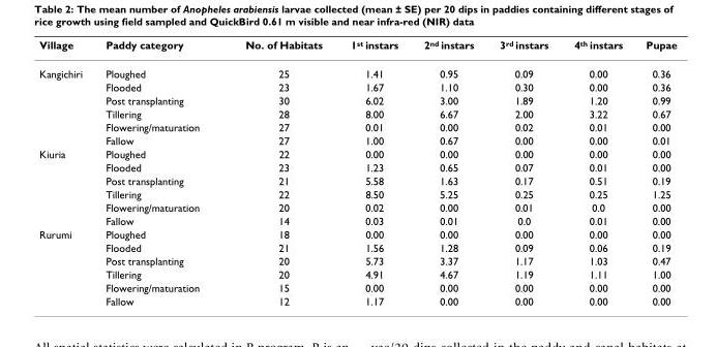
<table><thead><tr><td>Village</td><td>Paddy category</td><td>No. of Habitats</td><td>1<sup>st</sup> instars</td><td>2<sup>nd</sup> instars</td><td>3<sup>rd</sup> instars</td><td>4<sup>th</sup> instars</td><td>Pupae</td></tr></thead><tbody><tr><td rowspan="6">Kangichiri</td><td>Ploughed</td><td>25</td><td>1.41</td><td>0.95</td><td>0.09</td><td>0.00</td><td>0.36</td></tr><tr><td>Flooded</td><td>23</td><td>1.67</td><td>1.10</td><td>0.30</td><td>0.00</td><td>0.36</td></tr><tr><td>Post transplanting</td><td>30</td><td>6.02</td><td>3.00</td><td>1.89</td><td>1.20</td><td>0.99</td></tr><tr><td>Tillering</td><td>28</td><td>8.00</td><td>6.67</td><td>2.00</td><td>3.22</td><td>0.67</td></tr><tr><td>Flowering/maturation</td><td>27</td><td>0.01</td><td>0.00</td><td>0.02</td><td>0.01</td><td>0.00</td></tr><tr><td>Fallow</td><td>27</td><td>1.00</td><td>0.67</td><td>0.00</td><td>0.00</td><td>0.01</td></tr><tr><td rowspan="6">Kiuria</td><td>Ploughed</td><td>22</td><td>0.00</td><td>0.00</td><td>0.00</td><td>0.00</td><td>0.00</td></tr><tr><td>Flooded</td><td>23</td><td>1.23</td><td>0.65</td><td>0.07</td><td>0.01</td><td>0.00</td></tr><tr><td>Post transplanting</td><td>21</td><td>5.58</td><td>1.63</td><td>0.17</td><td>0.51</td><td>0.19</td></tr><tr><td>Tillering</td><td>22</td><td>8.50</td><td>5.25</td><td>0.25</td><td>0.25</td><td>1.25</td></tr><tr><td>Flowering/maturation</td><td>20</td><td>0.02</td><td>0.00</td><td>0.01</td><td>0.0</td><td>0.00</td></tr><tr><td>Fallow</td><td>14</td><td>0.03</td><td>0.01</td><td>0.0</td><td>0.01</td><td>0.00</td></tr><tr><td rowspan="6">Rurumi</td><td>Ploughed</td><td>18</td><td>0.00</td><td>0.00</td><td>0.00</td><td>0.00</td><td>0.00</td></tr><tr><td>Flooded</td><td>21</td><td>1.56</td><td>1.28</td><td>0.09</td><td>0.06</td><td>0.19</td></tr><tr><td>Post transplanting</td><td>20</td><td>5.73</td><td>3.37</td><td>1.17</td><td>1.03</td><td>0.47</td></tr><tr><td>Tillering</td><td>20</td><td>4.91</td><td>4.67</td><td>1.19</td><td>1.11</td><td>1.00</td></tr><tr><td>Flowering/maturation</td><td>15</td><td>0.00</td><td>0.00</td><td>0.00</td><td>0.00</td><td>0.00</td></tr><tr><td>Fallow</td><td>12</td><td>1.17</td><td>0.00</td><td>0.00</td><td>0.00</td><td>0.00</td></tr></tbody></table>